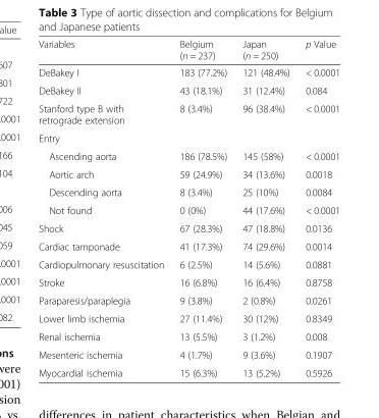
<table><thead><tr><td>Variables</td><td>Belgium (n = 237)</td><td>Japan (n = 250)</td><td>p Value</td></tr></thead><tbody><tr><td>DeBakey I</td><td>183 (77.2%)</td><td>121 (48.4%)</td><td>&lt; 0.0001</td></tr><tr><td>DeBakey II</td><td>43 (18.1%)</td><td>31 (12.4%)</td><td>0.084</td></tr><tr><td>Stanford type B with retrograde extension</td><td>8 (3.4%)</td><td>96 (38.4%)</td><td>&lt; 0.0001</td></tr><tr><td colspan="4">Entry</td></tr><tr><td>Ascending aorta</td><td>186 (78.5%)</td><td>145 (58%)</td><td>&lt; 0.0001</td></tr><tr><td>Aortic arch</td><td>59 (24.9%)</td><td>34 (13.6%)</td><td>0.0018</td></tr><tr><td>Descending aorta</td><td>8 (3.4%)</td><td>25 (10%)</td><td>0.0084</td></tr><tr><td>Not found</td><td>0 (0%)</td><td>44 (17.6%)</td><td>&lt; 0.0001</td></tr><tr><td>Shock</td><td>67 (28.3%)</td><td>47 (18.8%)</td><td>0.0136</td></tr><tr><td>Cardiac tamponade</td><td>41 (17.3%)</td><td>74 (29.6%)</td><td>0.0014</td></tr><tr><td>Cardiopulmonary resuscitation</td><td>6 (2.5%)</td><td>14 (5.6%)</td><td>0.0881</td></tr><tr><td>Stroke</td><td>16 (6.8%)</td><td>16 (6.4%)</td><td>0.8758</td></tr><tr><td>Paraparesis/paraplegia</td><td>9 (3.8%)</td><td>2 (0.8%)</td><td>0.0261</td></tr><tr><td>Lower limb ischemia</td><td>27 (11.4%)</td><td>30 (12%)</td><td>0.8349</td></tr><tr><td>Renal ischemia</td><td>13 (5.5%)</td><td>3 (1.2%)</td><td>0.008</td></tr><tr><td>Mesenteric ischemia</td><td>4 (1.7%)</td><td>9 (3.6%)</td><td>0.1907</td></tr><tr><td>Myocardial ischemia</td><td>15 (6.3%)</td><td>13 (5.2%)</td><td>0.5926</td></tr></tbody></table>